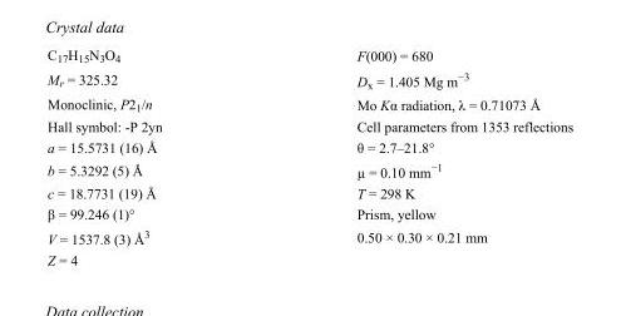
<table><tbody><tr><td>C<sub>17</sub>H<sub>15</sub>N<sub>3</sub>O<sub>4</sub></td><td>F(000) = 680</td></tr><tr><td>M<sub>r</sub> = 325.32</td><td>D<sub>x</sub> = 1.405 Mg m<sup>−3</sup></td></tr><tr><td>Monoclinic, P2<sub>1</sub>/n</td><td>Mo Kα radiation, λ = 0.71073 Å</td></tr><tr><td>Hall symbol: -P 2yn</td><td>Cell parameters from 1353 reflections</td></tr><tr><td>a = 15.5731 (16) Å</td><td>θ = 2.7–21.8°</td></tr><tr><td>b = 5.3292 (5) Å</td><td>µ = 0.10 mm<sup>−1</sup></td></tr><tr><td>c = 18.7731 (19) Å</td><td>T = 298 K</td></tr><tr><td>β = 99.246 (1)°</td><td>Prism, yellow</td></tr><tr><td>V = 1537.8 (3) Å<sup>3</sup></td><td>0.50 × 0.30 × 0.21 mm</td></tr><tr><td>Z = 4</td><td></td></tr></tbody></table>